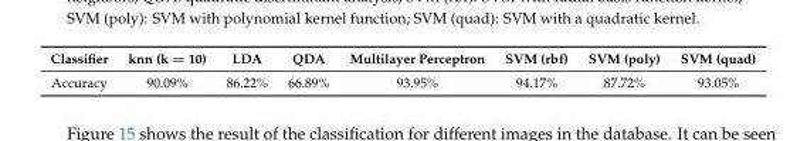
<table><thead><tr><td>Classifier</td><td>knn (k = 10)</td><td>LDA</td><td>QDA</td><td>Multilayer Perceptron</td><td>SVM (rbf)</td><td>SVM (poly)</td><td>SVM (quad)</td></tr></thead><tbody><tr><td>Accuracy</td><td>90.09%</td><td>86.22%</td><td>66.89%</td><td>93.95%</td><td>94.17%</td><td>87.72%</td><td>93.05%</td></tr></tbody></table>